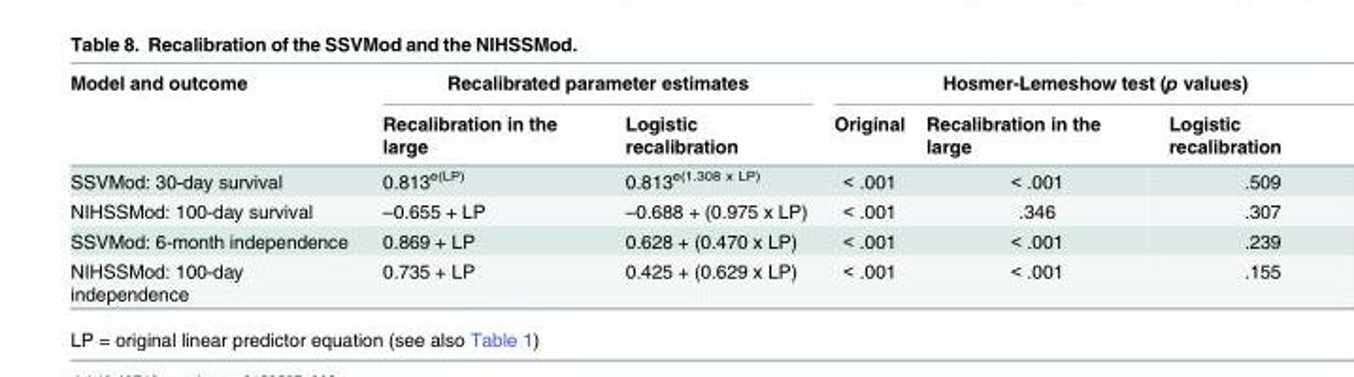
<table><thead><tr><td rowspan="2">Model and outcome</td><td colspan="2">Recalibrated parameter estimates</td><td colspan="3">Hosmer-Lemeshow test (p values)</td></tr><tr><td>Recalibration in the large</td><td>Logistic recalibration</td><td>Original</td><td>Recalibration in the large</td><td>Logistic recalibration</td></tr></thead><tbody><tr><td>SSVMod: 30-day survival</td><td>0.813<sup>e(LP)</sup></td><td>0.813<sup>e(1.308 x LP)</sup></td><td>&lt; .001</td><td>&lt; .001</td><td>.509</td></tr><tr><td>NIHSSMod: 100-day survival</td><td>–0.655 + LP</td><td>–0.688 + (0.975 x LP)</td><td>&lt; .001</td><td>.346</td><td>.307</td></tr><tr><td>SSVMod: 6-month independence</td><td>0.869 + LP</td><td>0.628 + (0.470 x LP)</td><td>&lt; .001</td><td>&lt; .001</td><td>.239</td></tr><tr><td>NIHSSMod: 100-day independence</td><td>0.735 + LP</td><td>0.425 + (0.629 x LP)</td><td>&lt; .001</td><td>&lt; .001</td><td>.155</td></tr></tbody></table>